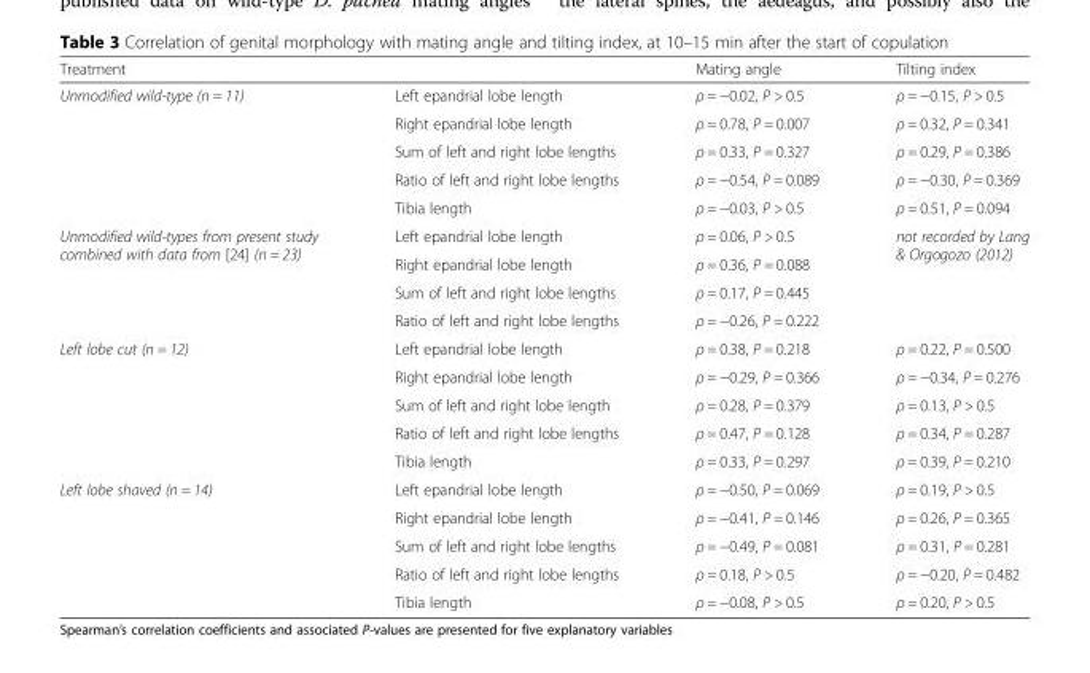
<table><thead><tr><td>Treatment</td><td></td><td>Mating angle</td><td>Tilting index</td></tr></thead><tbody><tr><td rowspan="5">Unmodified wild-type (n = 11)</td><td>Left epandrial lobe length</td><td>ρ = −0.02, P &gt; 0.5</td><td>ρ = −0.15, P &gt; 0.5</td></tr><tr><td>Right epandrial lobe length</td><td>ρ = 0.78, P = 0.007</td><td>ρ = 0.32, P = 0.341</td></tr><tr><td>Sum of left and right lobe lengths</td><td>ρ = 0.33, P = 0.327</td><td>ρ = 0.29, P = 0.386</td></tr><tr><td>Ratio of left and right lobe lengths</td><td>ρ = −0.54, P = 0.089</td><td>ρ = −0.30, P = 0.369</td></tr><tr><td>Tibia length</td><td>ρ = −0.03, P &gt; 0.5</td><td>ρ = 0.51, P = 0.094</td></tr><tr><td rowspan="4">Unmodified wild-types from present study combined with data from [24] (n = 23)</td><td>Left epandrial lobe length</td><td>ρ = 0.06, P &gt; 0.5</td><td rowspan="4">not recorded by Lang &amp; Orgogozo (2012)</td></tr><tr><td>Right epandrial lobe length</td><td>ρ = 0.36, P = 0.088</td></tr><tr><td>Sum of left and right lobe lengths</td><td>ρ = 0.17, P = 0.445</td></tr><tr><td>Ratio of left and right lobe lengths</td><td>ρ = −0.26, P = 0.222</td></tr><tr><td rowspan="5">Left lobe cut (n = 12)</td><td>Left epandrial lobe length</td><td>ρ = 0.38, P = 0.218</td><td>ρ = 0.22, P = 0.500</td></tr><tr><td>Right epandrial lobe length</td><td>ρ = −0.29, P = 0.366</td><td>ρ = −0.34, P = 0.276</td></tr><tr><td>Sum of left and right lobe length</td><td>ρ = 0.28, P = 0.379</td><td>ρ = 0.13, P &gt; 0.5</td></tr><tr><td>Ratio of left and right lobe lengths</td><td>ρ = 0.47, P = 0.128</td><td>ρ = 0.34, P = 0.287</td></tr><tr><td>Tibia length</td><td>ρ = 0.33, P = 0.297</td><td>ρ = 0.39, P = 0.210</td></tr><tr><td rowspan="5">Left lobe shaved (n = 14)</td><td>Left epandrial lobe length</td><td>ρ = −0.50, P = 0.069</td><td>ρ = 0.19, P &gt; 0.5</td></tr><tr><td>Right epandrial lobe length</td><td>ρ = −0.41, P = 0.146</td><td>ρ = 0.26, P = 0.365</td></tr><tr><td>Sum of left and right lobe lengths</td><td>ρ = −0.49, P = 0.081</td><td>ρ = 0.31, P = 0.281</td></tr><tr><td>Ratio of left and right lobe lengths</td><td>ρ = 0.18, P &gt; 0.5</td><td>ρ = −0.20, P = 0.482</td></tr><tr><td>Tibia length</td><td>ρ = −0.08, P &gt; 0.5</td><td>ρ = 0.20, P &gt; 0.5</td></tr></tbody></table>